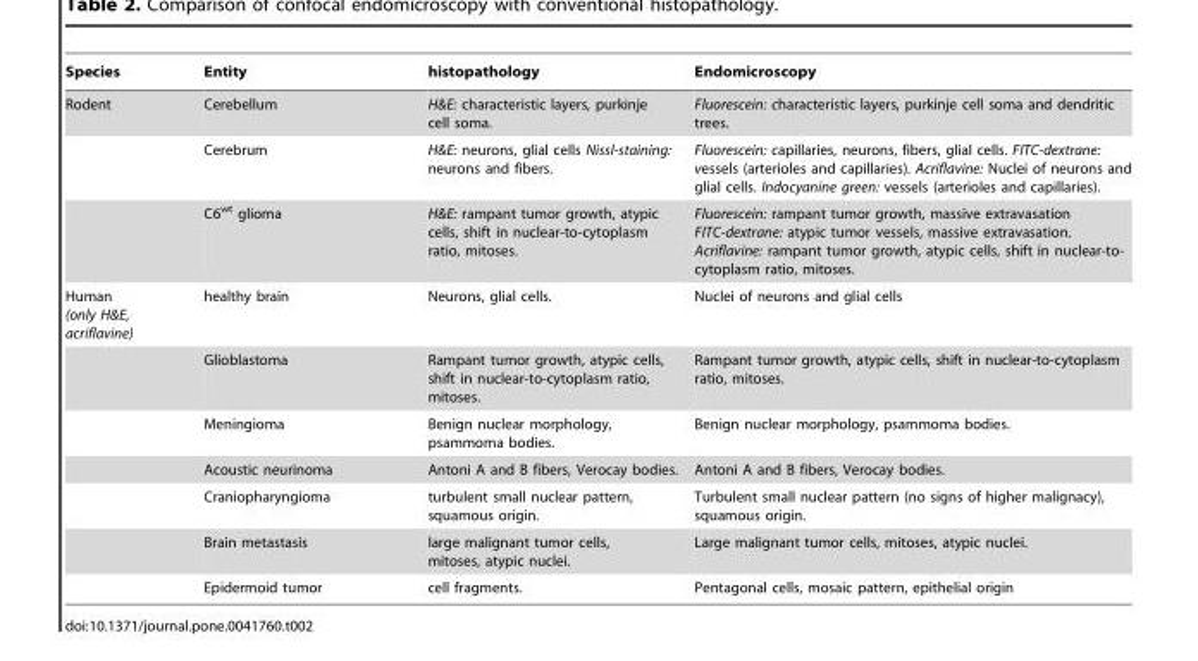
<table><thead><tr><td>Species</td><td>Entity</td><td>histopathology</td><td>Endomicroscopy</td></tr></thead><tbody><tr><td rowspan="3">Rodent</td><td>Cerebellum</td><td>H&amp;E: characteristic layers, purkinje cell soma.</td><td>Fluorescein: characteristic layers, purkinje cell soma and dendritic trees.</td></tr><tr><td>Cerebrum</td><td>H&amp;E: neurons, glial cells Nissl-staining: neurons and fibers.</td><td>Fluorescein: capillaries, neurons, fibers, glial cells. FITC-dextrane: vessels (arterioles and capillaries). Acriflavine: Nuclei of neurons and glial cells. Indocyanine green: vessels (arterioles and capillaries).</td></tr><tr><td>C6<sup>wt</sup> glioma</td><td>H&amp;E: rampant tumor growth, atypic cells, shift in nuclear-to-cytoplasm ratio, mitoses.</td><td>Fluorescein: rampant tumor growth, massive extravasation FITC-dextrane: atypic tumor vessels, massive extravasation. Acriflavine: rampant tumor growth, atypic cells, shift in nuclear-to- cytoplasm ratio, mitoses.</td></tr><tr><td rowspan="7">Human (only H&amp;E, acriflavine)</td><td>healthy brain</td><td>Neurons, glial cells.</td><td>Nuclei of neurons and glial cells</td></tr><tr><td>Glioblastoma</td><td>Rampant tumor growth, atypic cells, shift in nuclear-to-cytoplasm ratio, mitoses.</td><td>Rampant tumor growth, atypic cells, shift in nuclear-to-cytoplasm ratio, mitoses.</td></tr><tr><td>Meningioma</td><td>Benign nuclear morphology, psammoma bodies.</td><td>Benign nuclear morphology, psammoma bodies.</td></tr><tr><td>Acoustic neurinoma</td><td>Antoni A and B fibers, Verocay bodies.</td><td>Antoni A and B fibers, Verocay bodies.</td></tr><tr><td>Craniopharyngioma</td><td>turbulent small nuclear pattern, squamous origin.</td><td>Turbulent small nuclear pattern (no signs of higher malignacy), squamous origin.</td></tr><tr><td>Brain metastasis</td><td>large malignant tumor cells, mitoses, atypic nuclei.</td><td>Large malignant tumor cells, mitoses, atypic nuclei.</td></tr><tr><td>Epidermoid tumor</td><td>cell fragments.</td><td>Pentagonal cells, mosaic pattern, epithelial origin</td></tr></tbody></table>